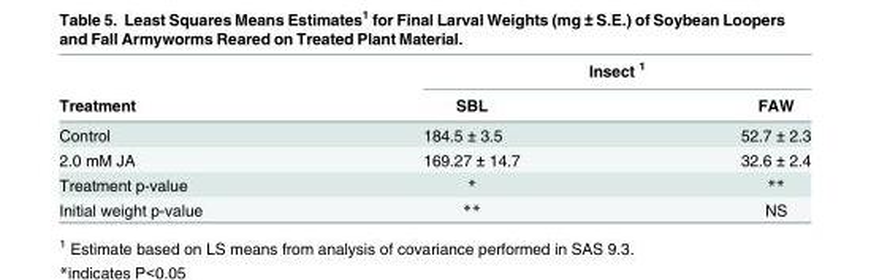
<table><thead><tr><td rowspan="2">Treatment</td><td colspan="2">Insect <sup>1</sup></td></tr><tr><td>SBL</td><td>FAW</td></tr></thead><tbody><tr><td>Control</td><td>184.5 ± 3.5</td><td>52.7 ± 2.3</td></tr><tr><td>2.0 mM JA</td><td>169.27 ± 14.7</td><td>32.6 ± 2.4</td></tr><tr><td>Treatment p-value</td><td>*</td><td>**</td></tr><tr><td>Initial weight p-value</td><td>**</td><td>NS</td></tr></tbody></table>